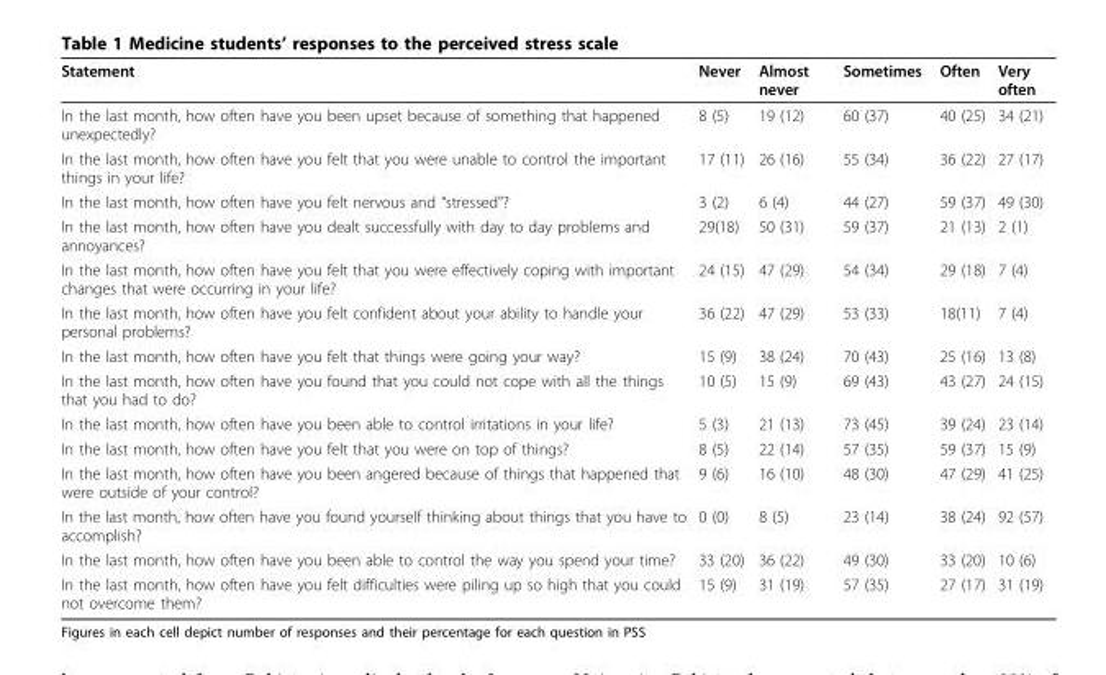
<table><thead><tr><td>Statement</td><td>Never</td><td>Almost never</td><td>Sometimes</td><td>Often</td><td>Very often</td></tr></thead><tbody><tr><td>In the last month, how often have you been upset because of something that happened unexpectedly?</td><td>8 (5)</td><td>19 (12)</td><td>60 (37)</td><td>40 (25)</td><td>34 (21)</td></tr><tr><td>In the last month, how often have you felt that you were unable to control the important things in your life?</td><td>17 (11)</td><td>26 (16)</td><td>55 (34)</td><td>36 (22)</td><td>27 (17)</td></tr><tr><td>In the last month, how often have you felt nervous and “stressed&quot;?</td><td>3 (2)</td><td>6 (4)</td><td>44 (27)</td><td>59 (37)</td><td>49 (30)</td></tr><tr><td>In the last month, how often have you dealt successfully with day to day problems and annoyances?</td><td>29(18)</td><td>50 (31)</td><td>59 (37)</td><td>21 (13)</td><td>2 (1)</td></tr><tr><td>In the last month, how often have you felt that you were effectively coping with important changes that were occurring in your life?</td><td>24 (15)</td><td>47 (29)</td><td>54 (34)</td><td>29 (18)</td><td>7 (4)</td></tr><tr><td>In the last month, how often have you felt confident about your ability to handle your personal problems?</td><td>36 (22)</td><td>47 (29)</td><td>53 (33)</td><td>18(11)</td><td>7 (4)</td></tr><tr><td>In the last month, how often have you felt that things were going your way?</td><td>15 (9)</td><td>38 (24)</td><td>70 (43)</td><td>25 (16)</td><td>13 (8)</td></tr><tr><td>In the last month, how often have you found that you could not cope with all the things that you had to do?</td><td>10 (5)</td><td>15 (9)</td><td>69 (43)</td><td>43 (27)</td><td>24 (15)</td></tr><tr><td>In the last month, how often have you been able to control irritations in your life?</td><td>5 (3)</td><td>21 (13)</td><td>73 (45)</td><td>39 (24)</td><td>23 (14)</td></tr><tr><td>In the last month, how often have you felt that you were on top of things?</td><td>8 (5)</td><td>22 (14)</td><td>57 (35)</td><td>59 (37)</td><td>15 (9)</td></tr><tr><td>In the last month, how often have you been angered because of things that happened that were outside of your control?</td><td>9 (6)</td><td>16 (10)</td><td>48 (30)</td><td>47 (29)</td><td>41 (25)</td></tr><tr><td>In the last month, how often have you found yourself thinking about things that you have to accomplish?</td><td>0 (0)</td><td>8 (5)</td><td>23 (14)</td><td>38 (24)</td><td>92 (57)</td></tr><tr><td>In the last month, how often have you been able to control the way you spend your time?</td><td>33 (20)</td><td>36 (22)</td><td>49 (30)</td><td>33 (20)</td><td>10 (6)</td></tr><tr><td>In the last month, how often have you felt difficulties were piling up so high that you could not overcome them?</td><td>15 (9)</td><td>31 (19)</td><td>57 (35)</td><td>27 (17)</td><td>31 (19)</td></tr></tbody></table>